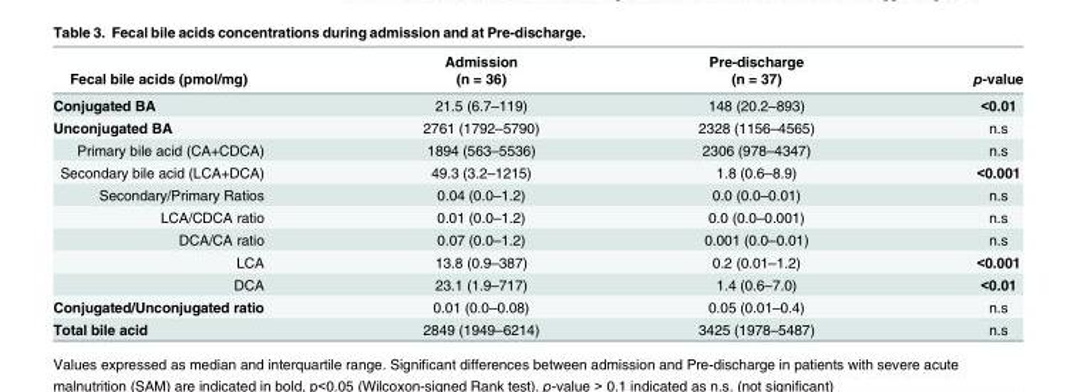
<table><thead><tr><td rowspan="2">Fecal bile acids (pmol/mg)</td><td rowspan="2">Admission (n = 36)</td><td rowspan="2">Pre-discharge (n = 37)</td><td rowspan="2">p-value</td></tr><tr></tr></thead><tbody><tr><td>Conjugated BA</td><td>21.5 (6.7–119)</td><td>148 (20.2–893)</td><td>&lt;0.01</td></tr><tr><td>Unconjugated BA</td><td>2761 (1792–5790)</td><td>2328 (1156–4565)</td><td>n.s</td></tr><tr><td>Primary bile acid (CA+CDCA)</td><td>1894 (563–5536)</td><td>2306 (978–4347)</td><td>n.s</td></tr><tr><td>Secondary bile acid (LCA+DCA)</td><td>49.3 (3.2–1215)</td><td>1.8 (0.6–8.9)</td><td>&lt;0.001</td></tr><tr><td>Secondary/Primary Ratios</td><td>0.04 (0.0–1.2)</td><td>0.0 (0.0–0.01)</td><td>n.s</td></tr><tr><td>LCA/CDCA ratio</td><td>0.01 (0.0–1.2)</td><td>0.0 (0.0–0.001)</td><td>n.s</td></tr><tr><td>DCA/CA ratio</td><td>0.07 (0.0–1.2)</td><td>0.001 (0.0–0.01)</td><td>n.s</td></tr><tr><td>LCA</td><td>13.8 (0.9–387)</td><td>0.2 (0.01–1.2)</td><td>&lt;0.001</td></tr><tr><td>DCA</td><td>23.1 (1.9–717)</td><td>1.4 (0.6–7.0)</td><td>&lt;0.01</td></tr><tr><td>Conjugated/Unconjugated ratio</td><td>0.01 (0.0–0.08)</td><td>0.05 (0.01–0.4)</td><td>n.s</td></tr><tr><td>Total bile acid</td><td>2849 (1949–6214)</td><td>3425 (1978–5487)</td><td>n.s</td></tr></tbody></table>